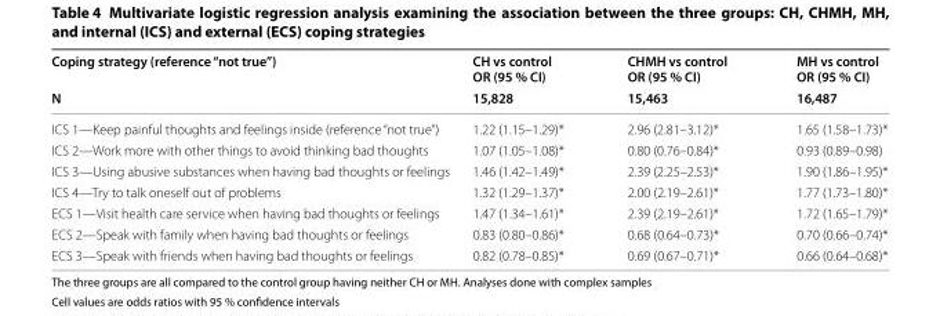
<table><thead><tr><td rowspan="2">Coping strategy (reference “not true”) N</td><td rowspan="2">CH vs control OR (95 % CI) 15,828</td><td rowspan="2">CHMH vs control OR (95 % CI) 15,463</td><td rowspan="2">MH vs control OR (95 % CI) 16,487</td></tr><tr></tr></thead><tbody><tr><td>ICS 1—Keep painful thoughts and feelings inside (reference “not true”)</td><td>1.22 (1.15–1.29)*</td><td>2.96 (2.81–3.12)*</td><td>1.65 (1.58–1.73)*</td></tr><tr><td>ICS 2—Work more with other things to avoid thinking bad thoughts</td><td>1.07 (1.05–1.08)*</td><td>0.80 (0.76–0.84)*</td><td>0.93 (0.89–0.98)</td></tr><tr><td>ICS 3—Using abusive substances when having bad thoughts or feelings</td><td>1.46 (1.42–1.49)*</td><td>2.39 (2.25–2.53)*</td><td>1.90 (1.86–1.95)*</td></tr><tr><td>ICS 4—Try to talk oneself out of problems</td><td>1.32 (1.29–1.37)*</td><td>2.00 (2.19–2.61)*</td><td>1.77 (1.73–1.80)*</td></tr><tr><td>ECS 1—Visit health care service when having bad thoughts or feelings</td><td>1.47 (1.34–1.61)*</td><td>2.39 (2.19–2.61)*</td><td>1.72 (1.65–1.79)*</td></tr><tr><td>ECS 2—Speak with family when having bad thoughts or feelings</td><td>0.83 (0.80–0.86)*</td><td>0.68 (0.64–0.73)*</td><td>0.70 (0.66–0.74)*</td></tr><tr><td>ECS 3—Speak with friends when having bad thoughts or feelings</td><td>0.82 (0.78–0.85)*</td><td>0.69 (0.67–0.71)*</td><td>0.66 (0.64–0.68)*</td></tr></tbody></table>